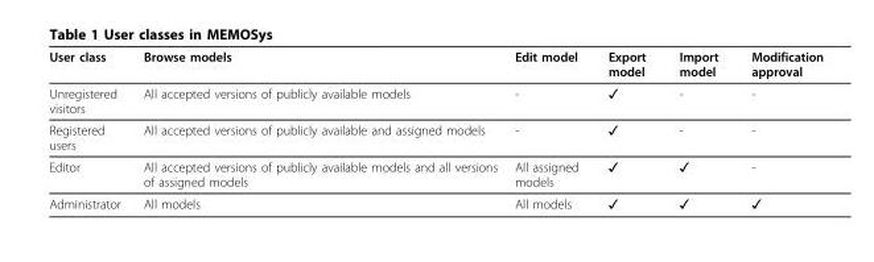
<table><thead><tr><td>User class</td><td>Browse models</td><td>Edit model</td><td>Export model</td><td>Import model</td><td>Modification approval</td></tr></thead><tbody><tr><td>Unregistered visitors</td><td>All accepted versions of publicly available models</td><td>-</td><td>✓</td><td>-</td><td>-</td></tr><tr><td>Registered users</td><td>All accepted versions of publicly available and assigned models</td><td>-</td><td>✓</td><td>-</td><td>-</td></tr><tr><td>Editor</td><td>All accepted versions of publicly available models and all versions of assigned models</td><td>All assigned models</td><td>✓</td><td>✓</td><td>-</td></tr><tr><td>Administrator</td><td>All models</td><td>All models</td><td>✓</td><td>✓</td><td>✓</td></tr></tbody></table>